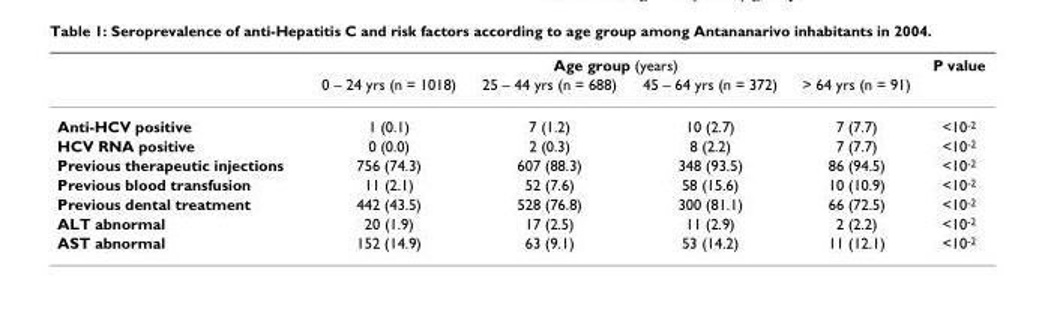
<table><thead><tr><td rowspan="2"></td><td colspan="4">Age group (years)</td><td rowspan="2">P value</td></tr><tr><td>0 – 24 yrs (n = 1018)</td><td>25 – 44 yrs (n = 688)</td><td>45 – 64 yrs (n = 372)</td><td>&gt; 64 yrs (n = 91)</td></tr></thead><tbody><tr><td>Anti-HCV positive</td><td>1 (0.1)</td><td>7 (1.2)</td><td>10 (2.7)</td><td>7 (7.7)</td><td>&lt;10<sup>-2</sup></td></tr><tr><td>HCV RNA positive</td><td>0 (0.0)</td><td>2 (0.3)</td><td>8 (2.2)</td><td>7 (7.7)</td><td>&lt;10<sup>-2</sup></td></tr><tr><td>Previous therapeutic injections</td><td>756 (74.3)</td><td>607 (88.3)</td><td>348 (93.5)</td><td>86 (94.5)</td><td>&lt;10<sup>-2</sup></td></tr><tr><td>Previous blood transfusion</td><td>11 (2.1)</td><td>52 (7.6)</td><td>58 (15.6)</td><td>10 (10.9)</td><td>&lt;10<sup>-2</sup></td></tr><tr><td>Previous dental treatment</td><td>442 (43.5)</td><td>528 (76.8)</td><td>300 (81.1)</td><td>66 (72.5)</td><td>&lt;10<sup>-2</sup></td></tr><tr><td>ALT abnormal</td><td>20 (1.9)</td><td>17 (2.5)</td><td>11 (2.9)</td><td>2 (2.2)</td><td>&lt;10<sup>-2</sup></td></tr><tr><td>AST abnormal</td><td>152 (14.9)</td><td>63 (9.1)</td><td>53 (14.2)</td><td>11 (12.1)</td><td>&lt;10<sup>-2</sup></td></tr></tbody></table>